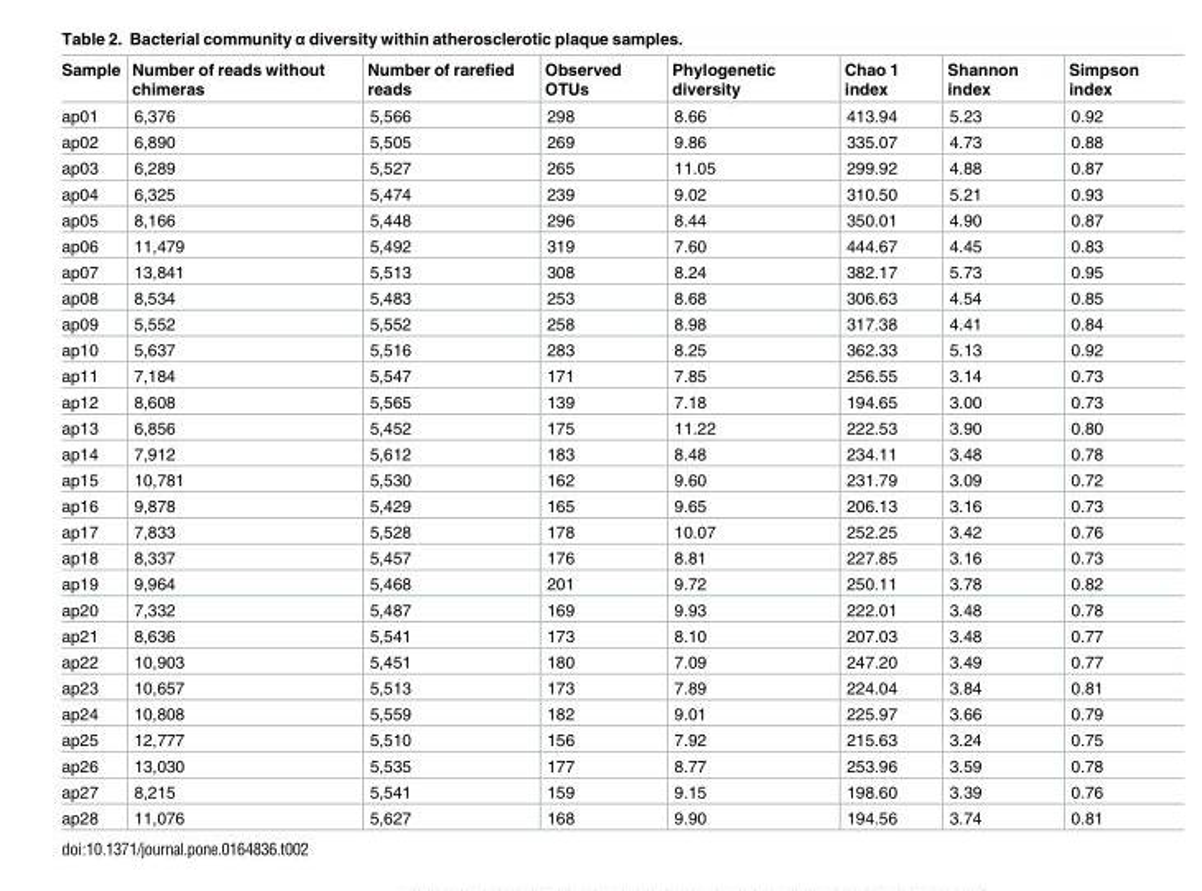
<table><thead><tr><td>Sample</td><td>Number of reads without chimeras</td><td>Number of rarefied reads</td><td>Observed OTUs</td><td>Phylogenetic diversity</td><td>Chao 1 index</td><td>Shannon index</td><td>Simpson index</td></tr></thead><tbody><tr><td>ap01</td><td>6,376</td><td>5,566</td><td>298</td><td>8.66</td><td>413.94</td><td>5.23</td><td>0.92</td></tr><tr><td>ap02</td><td>6,890</td><td>5,505</td><td>269</td><td>9.86</td><td>335.07</td><td>4.73</td><td>0.88</td></tr><tr><td>ap03</td><td>6,289</td><td>5,527</td><td>265</td><td>11.05</td><td>299.92</td><td>4.88</td><td>0.87</td></tr><tr><td>ap04</td><td>6,325</td><td>5,474</td><td>239</td><td>9.02</td><td>310.50</td><td>5.21</td><td>0.93</td></tr><tr><td>ap05</td><td>8,166</td><td>5,448</td><td>296</td><td>8.44</td><td>350.01</td><td>4.90</td><td>0.87</td></tr><tr><td>ap06</td><td>11,479</td><td>5,492</td><td>319</td><td>7.60</td><td>444.67</td><td>4.45</td><td>0.83</td></tr><tr><td>ap07</td><td>13,841</td><td>5,513</td><td>308</td><td>8.24</td><td>382.17</td><td>5.73</td><td>0.95</td></tr><tr><td>ap08</td><td>8,534</td><td>5,483</td><td>253</td><td>8.68</td><td>306.63</td><td>4.54</td><td>0.85</td></tr><tr><td>ap09</td><td>5,552</td><td>5,552</td><td>258</td><td>8.98</td><td>317.38</td><td>4.41</td><td>0.84</td></tr><tr><td>ap10</td><td>5,637</td><td>5,516</td><td>283</td><td>8.25</td><td>362.33</td><td>5.13</td><td>0.92</td></tr><tr><td>ap11</td><td>7,184</td><td>5,547</td><td>171</td><td>7.85</td><td>256.55</td><td>3.14</td><td>0.73</td></tr><tr><td>ap12</td><td>8,608</td><td>5,565</td><td>139</td><td>7.18</td><td>194.65</td><td>3.00</td><td>0.73</td></tr><tr><td>ap13</td><td>6,856</td><td>5,452</td><td>175</td><td>11.22</td><td>222.53</td><td>3.90</td><td>0.80</td></tr><tr><td>ap14</td><td>7,912</td><td>5,612</td><td>183</td><td>8.48</td><td>234.11</td><td>3.48</td><td>0.78</td></tr><tr><td>ap15</td><td>10,781</td><td>5,530</td><td>162</td><td>9.60</td><td>231.79</td><td>3.09</td><td>0.72</td></tr><tr><td>ap16</td><td>9,878</td><td>5,429</td><td>165</td><td>9.65</td><td>206.13</td><td>3.16</td><td>0.73</td></tr><tr><td>ap17</td><td>7,833</td><td>5,528</td><td>178</td><td>10.07</td><td>252.25</td><td>3.42</td><td>0.76</td></tr><tr><td>ap18</td><td>8,337</td><td>5,457</td><td>176</td><td>8.81</td><td>227.85</td><td>3.16</td><td>0.73</td></tr><tr><td>ap19</td><td>9,964</td><td>5,468</td><td>201</td><td>9.72</td><td>250.11</td><td>3.78</td><td>0.82</td></tr><tr><td>ap20</td><td>7,332</td><td>5,487</td><td>169</td><td>9.93</td><td>222.01</td><td>3.48</td><td>0.78</td></tr><tr><td>ap21</td><td>8,636</td><td>5,541</td><td>173</td><td>8.10</td><td>207.03</td><td>3.48</td><td>0.77</td></tr><tr><td>ap22</td><td>10,903</td><td>5,451</td><td>180</td><td>7.09</td><td>247.20</td><td>3.49</td><td>0.77</td></tr><tr><td>ap23</td><td>10,657</td><td>5,513</td><td>173</td><td>7.89</td><td>224.04</td><td>3.84</td><td>0.81</td></tr><tr><td>ap24</td><td>10,808</td><td>5,559</td><td>182</td><td>9.01</td><td>225.97</td><td>3.66</td><td>0.79</td></tr><tr><td>ap25</td><td>12,777</td><td>5,510</td><td>156</td><td>7.92</td><td>215.63</td><td>3.24</td><td>0.75</td></tr><tr><td>ap26</td><td>13,030</td><td>5,535</td><td>177</td><td>8.77</td><td>253.96</td><td>3.59</td><td>0.78</td></tr><tr><td>ap27</td><td>8,215</td><td>5,541</td><td>159</td><td>9.15</td><td>198.60</td><td>3.39</td><td>0.76</td></tr><tr><td>ap28</td><td>11,076</td><td>5,627</td><td>168</td><td>9.90</td><td>194.56</td><td>3.74</td><td>0.81</td></tr></tbody></table>